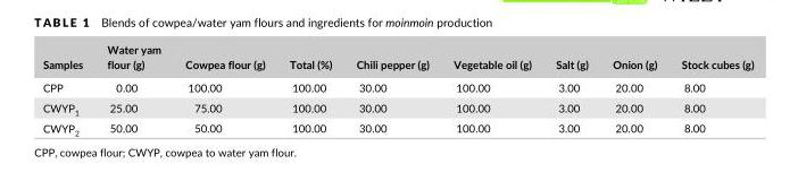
<table><thead><tr><td>Samples</td><td>Water yam flour (g)</td><td>Cowpea flour (g)</td><td>Total (%)</td><td>Chili pepper (g)</td><td>Vegetable oil (g)</td><td>Salt (g)</td><td>Onion (g)</td><td>Stock cubes (g)</td></tr></thead><tbody><tr><td>CPP</td><td>0.00</td><td>100.00</td><td>100.00</td><td>30.00</td><td>100.00</td><td>3.00</td><td>20.00</td><td>8.00</td></tr><tr><td>CWYP<sub>1</sub></td><td>25.00</td><td>75.00</td><td>100.00</td><td>30.00</td><td>100.00</td><td>3.00</td><td>20.00</td><td>8.00</td></tr><tr><td>CWYP<sub>2</sub></td><td>50.00</td><td>50.00</td><td>100.00</td><td>30.00</td><td>100.00</td><td>3.00</td><td>20.00</td><td>8.00</td></tr></tbody></table>